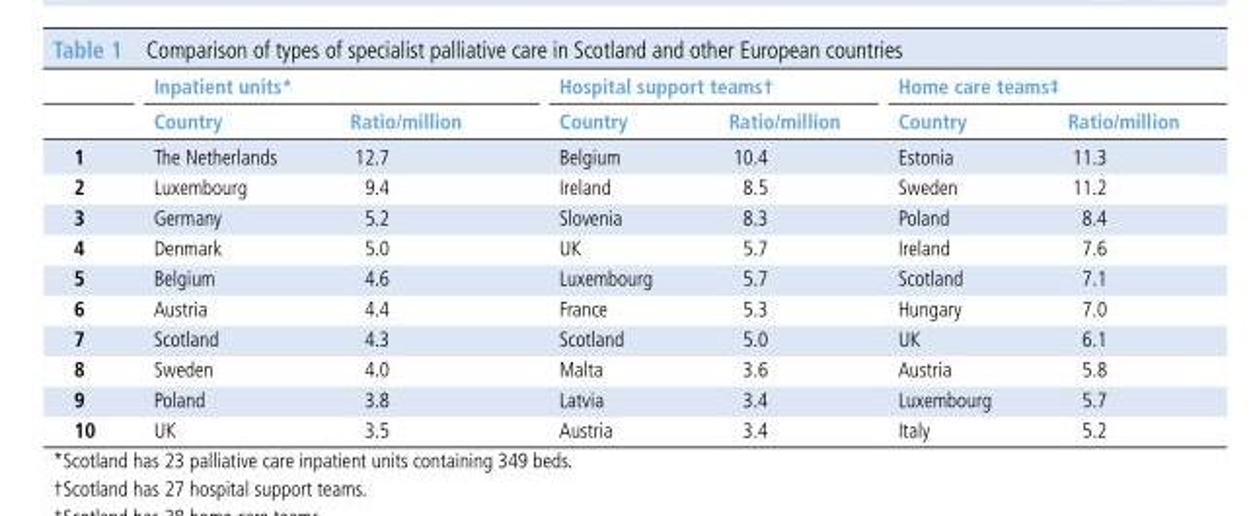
<table><thead><tr><td rowspan="2"></td><td colspan="2">Inpatient units*</td><td colspan="2">Hospital support teams†</td><td colspan="2">Home care teams‡</td></tr><tr><td>Country</td><td>Ratio/million</td><td>Country</td><td>Ratio/million</td><td>Country</td><td>Ratio/million</td></tr></thead><tbody><tr><td>1</td><td>The Netherlands</td><td>12.7</td><td>Belgium</td><td>10.4</td><td>Estonia</td><td>11.3</td></tr><tr><td>2</td><td>Luxembourg</td><td>9.4</td><td>Ireland</td><td>8.5</td><td>Sweden</td><td>11.2</td></tr><tr><td>3</td><td>Germany</td><td>5.2</td><td>Slovenia</td><td>8.3</td><td>Poland</td><td>8.4</td></tr><tr><td>4</td><td>Denmark</td><td>5.0</td><td>UK</td><td>5.7</td><td>Ireland</td><td>7.6</td></tr><tr><td>5</td><td>Belgium</td><td>4.6</td><td>Luxembourg</td><td>5.7</td><td>Scotland</td><td>7.1</td></tr><tr><td>6</td><td>Austria</td><td>4.4</td><td>France</td><td>5.3</td><td>Hungary</td><td>7.0</td></tr><tr><td>7</td><td>Scotland</td><td>4.3</td><td>Scotland</td><td>5.0</td><td>UK</td><td>6.1</td></tr><tr><td>8</td><td>Sweden</td><td>4.0</td><td>Malta</td><td>3.6</td><td>Austria</td><td>5.8</td></tr><tr><td>9</td><td>Poland</td><td>3.8</td><td>Latvia</td><td>3.4</td><td>Luxembourg</td><td>5.7</td></tr><tr><td>10</td><td>UK</td><td>3.5</td><td>Austria</td><td>3.4</td><td>Italy</td><td>5.2</td></tr></tbody></table>